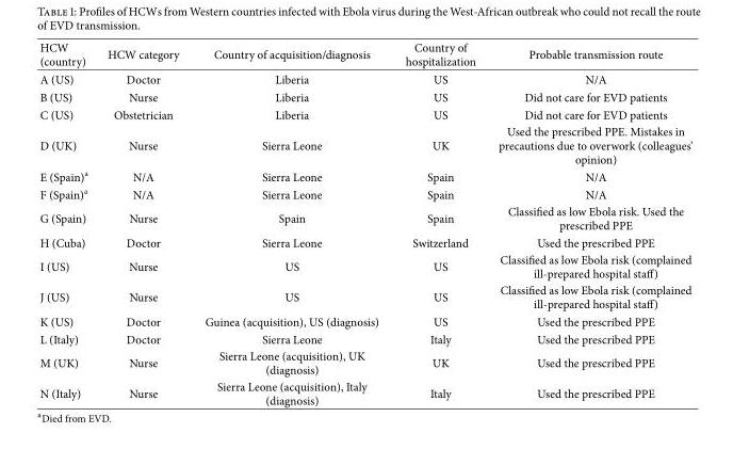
<table><thead><tr><td>HCW (country)</td><td>HCW category</td><td>Country of acquisition/diagnosis</td><td>Country of hospitalization</td><td>Probable transmission route</td></tr></thead><tbody><tr><td>A (US)</td><td>Doctor</td><td>Liberia</td><td>US</td><td>N/A</td></tr><tr><td>B (US)</td><td>Nurse</td><td>Liberia</td><td>US</td><td>Did not care for EVD patients</td></tr><tr><td>C (US)</td><td>Obstetrician</td><td>Liberia</td><td>US</td><td>Did not care for EVD patients</td></tr><tr><td>D (UK)</td><td>Nurse</td><td>Sierra Leone</td><td>UK</td><td>Used the prescribed PPE. Mistakes in precautions due to overwork (colleagues’ opinion)</td></tr><tr><td>E (Spain)<sup>a</sup></td><td>N/A</td><td>Sierra Leone</td><td>Spain</td><td>N/A</td></tr><tr><td>F (Spain)<sup>a</sup></td><td>N/A</td><td>Sierra Leone</td><td>Spain</td><td>N/A</td></tr><tr><td>G (Spain)</td><td>Nurse</td><td>Spain</td><td>Spain</td><td>Classified as low Ebola risk. Used the prescribed PPE</td></tr><tr><td>H (Cuba)</td><td>Doctor</td><td>Sierra Leone</td><td>Switzerland</td><td>Used the prescribed PPE</td></tr><tr><td>I (US)</td><td>Nurse</td><td>US</td><td>US</td><td>Classified as low Ebola risk (complained ill-prepared hospital staff)</td></tr><tr><td>J (US)</td><td>Nurse</td><td>US</td><td>US</td><td>Classified as low Ebola risk (complained ill-prepared hospital staff)</td></tr><tr><td>K (US)</td><td>Doctor</td><td>Guinea (acquisition), US (diagnosis)</td><td>US</td><td>Used the prescribed PPE</td></tr><tr><td>L (Italy)</td><td>Doctor</td><td>Sierra Leone</td><td>Italy</td><td>Used the prescribed PPE</td></tr><tr><td>M (UK)</td><td>Nurse</td><td>Sierra Leone (acquisition), UK (diagnosis)</td><td>UK</td><td>Used the prescribed PPE</td></tr><tr><td>N (Italy)</td><td>Nurse</td><td>Sierra Leone (acquisition), Italy (diagnosis)</td><td>Italy</td><td>Used the prescribed PPE</td></tr></tbody></table>